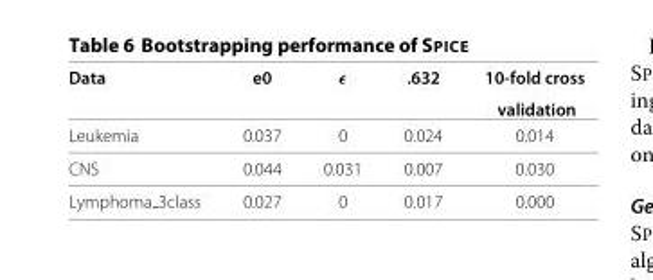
<table><thead><tr><td>Data</td><td>e0</td><td>ϵ</td><td>.632</td><td>10-fold cross validation</td></tr></thead><tbody><tr><td>Leukemia</td><td>0.037</td><td>0</td><td>0.024</td><td>0.014</td></tr><tr><td>CNS</td><td>0.044</td><td>0.031</td><td>0.007</td><td>0.030</td></tr><tr><td>Lymphoma 3class</td><td>0.027</td><td>0</td><td>0.017</td><td>0.000</td></tr></tbody></table>